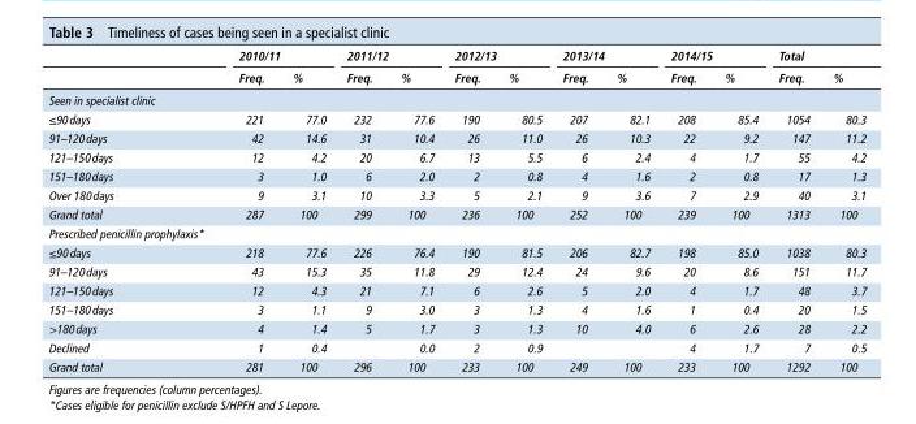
<table><thead><tr><td rowspan="2"></td><td colspan="2">2010/11</td><td colspan="2">2011/12</td><td colspan="2">2012/13</td><td colspan="2">2013/14</td><td colspan="2">2014/15</td><td colspan="2">Total</td></tr><tr><td>Freq.</td><td>%</td><td>Freq.</td><td>%</td><td>Freq.</td><td>%</td><td>Freq.</td><td>%</td><td>Freq.</td><td>%</td><td>Freq.</td><td>%</td></tr></thead><tbody><tr><td colspan="13">Seen in specialist clinic</td></tr><tr><td>≤90 days</td><td>221</td><td>77.0</td><td>232</td><td>77.6</td><td>190</td><td>80.5</td><td>207</td><td>82.1</td><td>208</td><td>85.4</td><td>1054</td><td>80.3</td></tr><tr><td>91–120 days</td><td>42</td><td>14.6</td><td>31</td><td>10.4</td><td>26</td><td>11.0</td><td>26</td><td>10.3</td><td>22</td><td>9.2</td><td>147</td><td>11.2</td></tr><tr><td>121–150 days</td><td>12</td><td>4.2</td><td>20</td><td>6.7</td><td>13</td><td>5.5</td><td>6</td><td>2.4</td><td>4</td><td>1.7</td><td>55</td><td>4.2</td></tr><tr><td>151–180 days</td><td>3</td><td>1.0</td><td>6</td><td>2.0</td><td>2</td><td>0.8</td><td>4</td><td>1.6</td><td>2</td><td>0.8</td><td>17</td><td>1.3</td></tr><tr><td>Over 180 days</td><td>9</td><td>3.1</td><td>10</td><td>3.3</td><td>5</td><td>2.1</td><td>9</td><td>3.6</td><td>7</td><td>2.9</td><td>40</td><td>3.1</td></tr><tr><td>Grand total</td><td>287</td><td>100</td><td>299</td><td>100</td><td>236</td><td>100</td><td>252</td><td>100</td><td>239</td><td>100</td><td>1313</td><td>100</td></tr><tr><td colspan="13">Prescribed penicillin prophylaxis*</td></tr><tr><td>≤90 days</td><td>218</td><td>77.6</td><td>226</td><td>76.4</td><td>190</td><td>81.5</td><td>206</td><td>82.7</td><td>198</td><td>85.0</td><td>1038</td><td>80.3</td></tr><tr><td>91–120 days</td><td>43</td><td>15.3</td><td>35</td><td>11.8</td><td>29</td><td>12.4</td><td>24</td><td>9.6</td><td>20</td><td>8.6</td><td>151</td><td>11.7</td></tr><tr><td>121–150 days</td><td>12</td><td>4.3</td><td>21</td><td>7.1</td><td>6</td><td>2.6</td><td>5</td><td>2.0</td><td>4</td><td>1.7</td><td>48</td><td>3.7</td></tr><tr><td>151–180 days</td><td>3</td><td>1.1</td><td>9</td><td>3.0</td><td>3</td><td>1.3</td><td>4</td><td>1.6</td><td>1</td><td>0.4</td><td>20</td><td>1.5</td></tr><tr><td>&gt;180 days</td><td>4</td><td>1.4</td><td>5</td><td>1.7</td><td>3</td><td>1.3</td><td>10</td><td>4.0</td><td>6</td><td>2.6</td><td>28</td><td>2.2</td></tr><tr><td>Declined</td><td>1</td><td>0.4</td><td></td><td>0.0</td><td>2</td><td>0.9</td><td></td><td></td><td>4</td><td>1.7</td><td>7</td><td>0.5</td></tr><tr><td>Grand total</td><td>281</td><td>100</td><td>296</td><td>100</td><td>233</td><td>100</td><td>249</td><td>100</td><td>233</td><td>100</td><td>1292</td><td>100</td></tr></tbody></table>